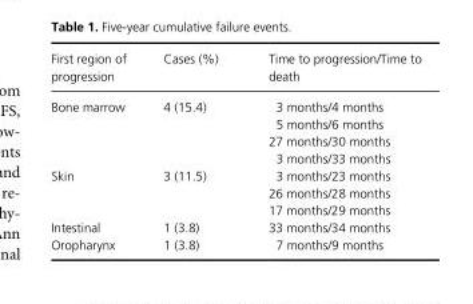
<table><thead><tr><td>First region of progression</td><td>Cases (%)</td><td>Time to progression/Time to death</td></tr></thead><tbody><tr><td rowspan="4">Bone marrow</td><td rowspan="4">4 (15.4)</td><td>3 months/4 months</td></tr><tr><td>5 months/6 months</td></tr><tr><td>27 months/30 months</td></tr><tr><td>3 months/33 months</td></tr><tr><td rowspan="3">Skin</td><td rowspan="3">3 (11.5)</td><td>3 months/23 months</td></tr><tr><td>26 months/28 months</td></tr><tr><td>17 months/29 months</td></tr><tr><td>Intestinal</td><td>1 (3.8)</td><td>33 months/34 months</td></tr><tr><td>Oropharynx</td><td>1 (3.8)</td><td>7 months/9 months</td></tr></tbody></table>